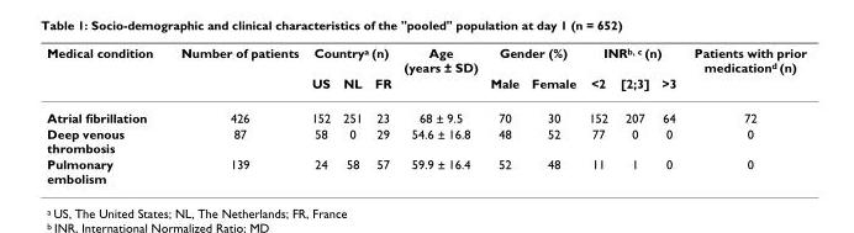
<table><thead><tr><td rowspan="2">Medical condition</td><td rowspan="2">Number of patients</td><td colspan="3">Country<sup>a</sup> (n)</td><td rowspan="2">Age (years ± SD)</td><td colspan="2">Gender (%)</td><td colspan="3">INR<sup>b, c</sup> (n)</td><td rowspan="2">Patients with prior medication<sup>d</sup> (n)</td></tr><tr><td>US</td><td>NL</td><td>FR</td><td>Male</td><td>Female</td><td>&lt;2</td><td>[2;3]</td><td>&gt;3</td></tr></thead><tbody><tr><td>Atrial fibrillation</td><td>426</td><td>152</td><td>251</td><td>23</td><td>68 ± 9.5</td><td>70</td><td>30</td><td>152</td><td>207</td><td>64</td><td>72</td></tr><tr><td>Deep venous thrombosis</td><td>87</td><td>58</td><td>0</td><td>29</td><td>54.6 ± 16.8</td><td>48</td><td>52</td><td>77</td><td>0</td><td>0</td><td>0</td></tr><tr><td>Pulmonary embolism</td><td>139</td><td>24</td><td>58</td><td>57</td><td>59.9 ± 16.4</td><td>52</td><td>48</td><td>11</td><td>1</td><td>0</td><td>0</td></tr></tbody></table>